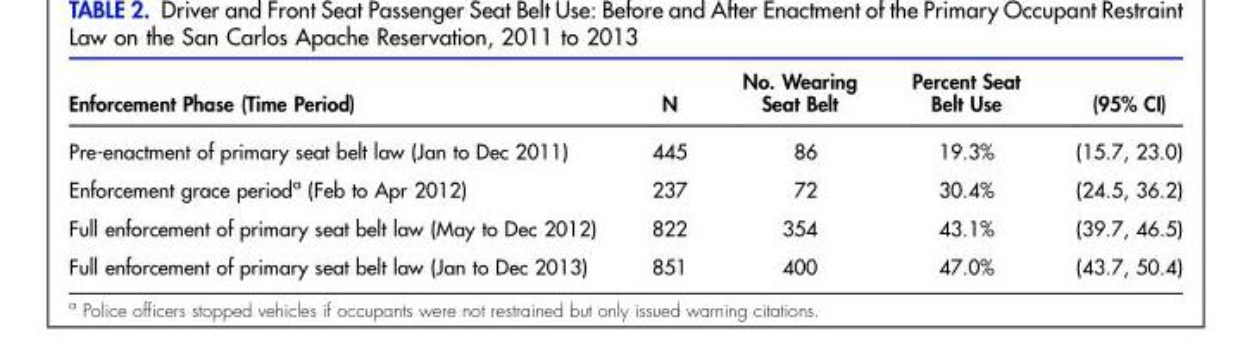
<table><thead><tr><td>Enforcement Phase (Time Period)</td><td>N</td><td>No. Wearing Seat Belt</td><td>Percent Seat Belt Use</td><td>(95% CI)</td></tr></thead><tbody><tr><td>Pre-enactment of primary seat belt law (Jan to Dec 2011)</td><td>445</td><td>86</td><td>19.3%</td><td>(15.7, 23.0)</td></tr><tr><td>Enforcement grace period<sup>a</sup> (Feb to Apr 2012)</td><td>237</td><td>72</td><td>30.4%</td><td>(24.5, 36.2)</td></tr><tr><td>Full enforcement of primary seat belt law (May to Dec 2012)</td><td>822</td><td>354</td><td>43.1%</td><td>(39.7, 46.5)</td></tr><tr><td>Full enforcement of primary seat belt law (Jan to Dec 2013)</td><td>851</td><td>400</td><td>47.0%</td><td>(43.7, 50.4)</td></tr></tbody></table>